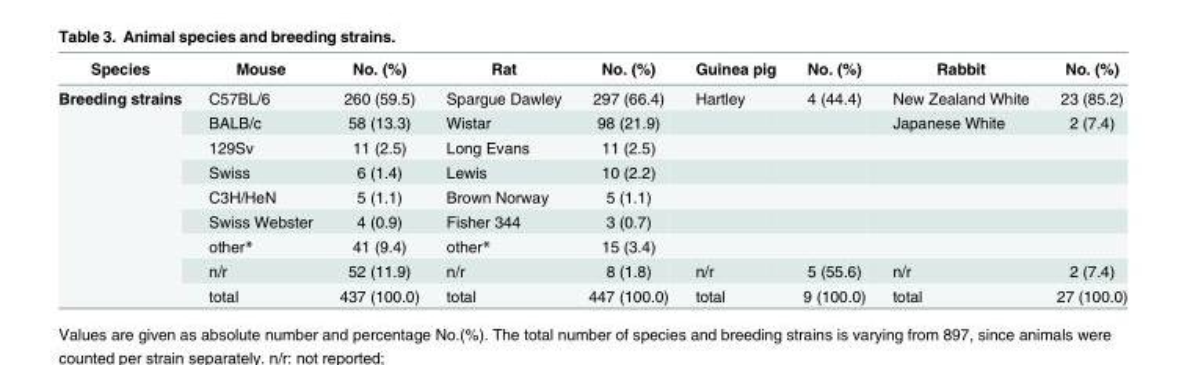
<table><thead><tr><td>Species</td><td>Mouse</td><td>No. (%)</td><td>Rat</td><td>No. (%)</td><td>Guinea pig</td><td>No. (%)</td><td>Rabbit</td><td>No. (%)</td></tr></thead><tbody><tr><td rowspan="9">Breeding strains</td><td>C57BL/6</td><td>260 (59.5)</td><td>Spargue Dawley</td><td>297 (66.4)</td><td>Hartley</td><td>4 (44.4)</td><td>New Zealand White</td><td>23 (85.2)</td></tr><tr><td>BALB/c</td><td>58 (13.3)</td><td>Wistar</td><td>98 (21.9)</td><td></td><td></td><td>Japanese White</td><td>2 (7.4)</td></tr><tr><td>129Sv</td><td>11 (2.5)</td><td>Long Evans</td><td>11 (2.5)</td><td></td><td></td><td></td><td></td></tr><tr><td>Swiss</td><td>6 (1.4)</td><td>Lewis</td><td>10 (2.2)</td><td></td><td></td><td></td><td></td></tr><tr><td>C3H/HeN</td><td>5 (1.1)</td><td>Brown Norway</td><td>5 (1.1)</td><td></td><td></td><td></td><td></td></tr><tr><td>Swiss Webster</td><td>4 (0.9)</td><td>Fisher 344</td><td>3 (0.7)</td><td></td><td></td><td></td><td></td></tr><tr><td>other*</td><td>41 (9.4)</td><td>other*</td><td>15 (3.4)</td><td></td><td></td><td></td><td></td></tr><tr><td>n/r</td><td>52 (11.9)</td><td>n/r</td><td>8 (1.8)</td><td>n/r</td><td>5 (55.6)</td><td>n/r</td><td>2 (7.4)</td></tr><tr><td>total</td><td>437 (100.0)</td><td>total</td><td>447 (100.0)</td><td>total</td><td>9 (100.0)</td><td>total</td><td>27 (100.0)</td></tr></tbody></table>